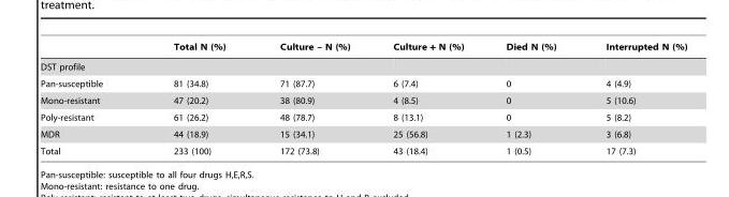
<table><thead><tr><td></td><td>Total N (%)</td><td>Culture – N (%)</td><td>Culture + N (%)</td><td>Died N (%)</td><td>Interrupted N (%)</td></tr></thead><tbody><tr><td colspan="6">DST profile</td></tr><tr><td>Pan-susceptible</td><td>81 (34.8)</td><td>71 (87.7)</td><td>6 (7.4)</td><td>0</td><td>4 (4.9)</td></tr><tr><td>Mono-resistant</td><td>47 (20.2)</td><td>38 (80.9)</td><td>4 (8.5)</td><td>0</td><td>5 (10.6)</td></tr><tr><td>Poly-resistant</td><td>61 (26.2)</td><td>48 (78.7)</td><td>8 (13.1)</td><td>0</td><td>5 (8.2)</td></tr><tr><td>MDR</td><td>44 (18.9)</td><td>15 (34.1)</td><td>25 (56.8)</td><td>1 (2.3)</td><td>3 (6.8)</td></tr><tr><td>Total</td><td>233 (100)</td><td>172 (73.8)</td><td>43 (18.4)</td><td>1 (0.5)</td><td>17 (7.3)</td></tr></tbody></table>